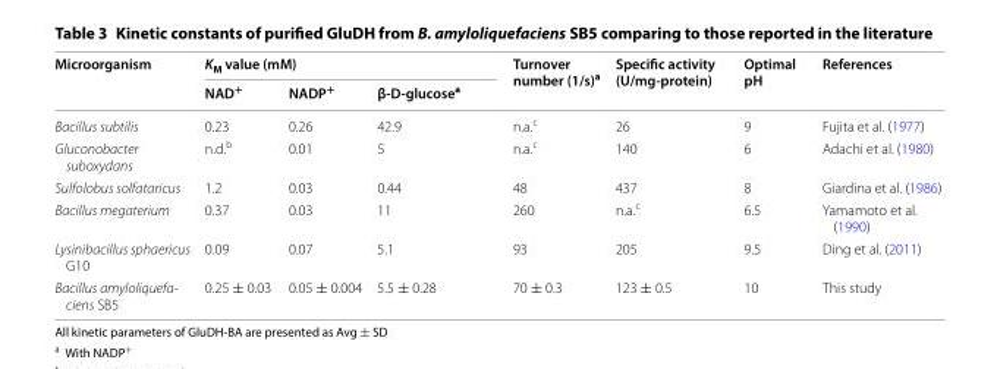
<table><thead><tr><td rowspan="2">Microorganism</td><td colspan="3">K<sub>M</sub> value (mM)</td><td rowspan="2">Turnover number (1/s)<sup>a</sup></td><td rowspan="2">Specific activity (U/mg‑protein)</td><td rowspan="2">Optimal pH</td><td rowspan="2">References</td></tr><tr><td>NAD<sup>+</sup></td><td>NADP<sup>+</sup></td><td>β‑D‑glucose<sup>a</sup></td></tr></thead><tbody><tr><td>Bacillus subtilis</td><td>0.23</td><td>0.26</td><td>42.9</td><td>n.a.<sup>c</sup></td><td>26</td><td>9</td><td>Fujita et al. (1977)</td></tr><tr><td>Gluconobacter suboxydans</td><td>n.d.<sup>b</sup></td><td>0.01</td><td>5</td><td>n.a.<sup>c</sup></td><td>140</td><td>6</td><td>Adachi et al. (1980)</td></tr><tr><td>Sulfolobus solfataricus</td><td>1.2</td><td>0.03</td><td>0.44</td><td>48</td><td>437</td><td>8</td><td>Giardina et al. (1986)</td></tr><tr><td>Bacillus megaterium</td><td>0.37</td><td>0.03</td><td>11</td><td>260</td><td>n.a.<sup>c</sup></td><td>6.5</td><td>Yamamoto et al. (1990)</td></tr><tr><td>Lysinibacillus sphaericus G10</td><td>0.09</td><td>0.07</td><td>5.1</td><td>93</td><td>205</td><td>9.5</td><td>Ding et al. (2011)</td></tr><tr><td>Bacillus amyloliquefa- ciens SB5</td><td>0.25 ± 0.03</td><td>0.05 ± 0.004</td><td>5.5 ± 0.28</td><td>70 ± 0.3</td><td>123 ± 0.5</td><td>10</td><td>This study</td></tr></tbody></table>